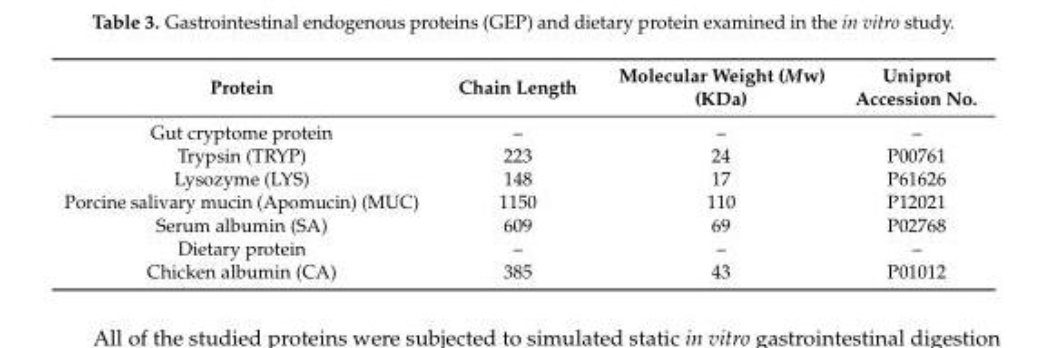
<table><thead><tr><td>Protein</td><td>Chain Length</td><td>Molecular Weight (Mw) (KDa)</td><td>Uniprot Accession No.</td></tr></thead><tbody><tr><td>Gut cryptome protein</td><td>–</td><td>–</td><td>–</td></tr><tr><td>Trypsin (TRYP)</td><td>223</td><td>24</td><td>P00761</td></tr><tr><td>Lysozyme (LYS)</td><td>148</td><td>17</td><td>P61626</td></tr><tr><td>Porcine salivary mucin (Apomucin) (MUC)</td><td>1150</td><td>110</td><td>P12021</td></tr><tr><td>Serum albumin (SA)</td><td>609</td><td>69</td><td>P02768</td></tr><tr><td>Dietary protein</td><td>–</td><td>–</td><td>–</td></tr><tr><td>Chicken albumin (CA)</td><td>385</td><td>43</td><td>P01012</td></tr></tbody></table>